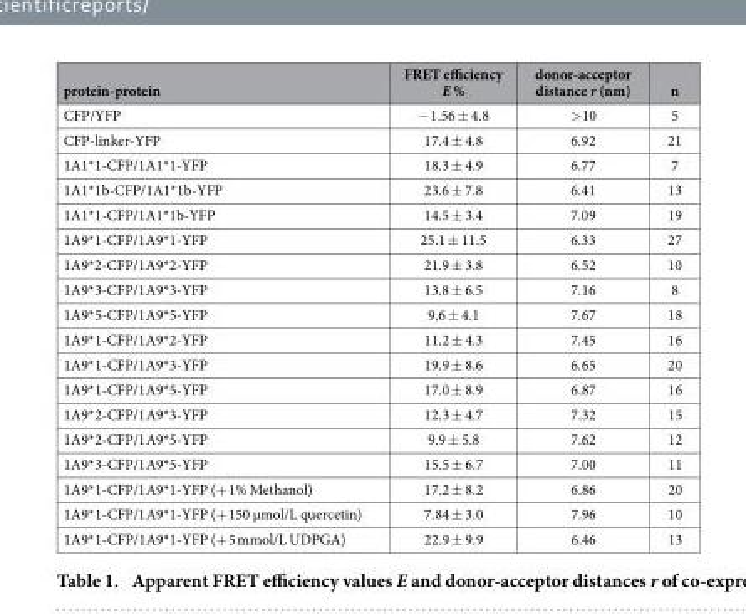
<table><thead><tr><td>protein-protein</td><td>FRET efficiency E %</td><td>donor-acceptor distance r (nm)</td><td>n</td></tr></thead><tbody><tr><td>CFP/YFP</td><td>− 1.56 ± 4.8</td><td>&gt;10</td><td>5</td></tr><tr><td>CFP-linker-YFP</td><td>17.4 ± 4.8</td><td>6.92</td><td>21</td></tr><tr><td>1A1*1-CFP/1A1*1-YFP</td><td>18.3 ± 4.9</td><td>6.77</td><td>7</td></tr><tr><td>1A1*1b-CFP/1A1*1b-YFP</td><td>23.6 ± 7.8</td><td>6.41</td><td>13</td></tr><tr><td>1A1*1-CFP/1A1*1b-YFP</td><td>14.5 ± 3.4</td><td>7.09</td><td>19</td></tr><tr><td>1A9*1-CFP/1A9*1-YFP</td><td>25.1 ± 11.5</td><td>6.33</td><td>27</td></tr><tr><td>1A9*2-CFP/1A9*2-YFP</td><td>21.9 ± 3.8</td><td>6.52</td><td>10</td></tr><tr><td>1A9*3-CFP/1A9*3-YFP</td><td>13.8 ± 6.5</td><td>7.16</td><td>8</td></tr><tr><td>1A9*5-CFP/1A9*5-YFP</td><td>9.6 ± 4.1</td><td>7.67</td><td>18</td></tr><tr><td>1A9*1-CFP/1A9*2-YFP</td><td>11.2 ± 4.3</td><td>7.45</td><td>16</td></tr><tr><td>1A9*1-CFP/1A9*3-YFP</td><td>19.9 ± 8.6</td><td>6.65</td><td>20</td></tr><tr><td>1A9*1-CFP/1A9*5-YFP</td><td>17.0 ± 8.9</td><td>6.87</td><td>16</td></tr><tr><td>1A9*2-CFP/1A9*3-YFP</td><td>12.3 ± 4.7</td><td>7.32</td><td>15</td></tr><tr><td>1A9*2-CFP/1A9*5-YFP</td><td>9.9 ± 5.8</td><td>7.62</td><td>12</td></tr><tr><td>1A9*3-CFP/1A9*5-YFP</td><td>15.5 ± 6.7</td><td>7.00</td><td>11</td></tr><tr><td>1A9*1-CFP/1A9*1-YFP (+ 1% Methanol)</td><td>17.2 ± 8.2</td><td>6.86</td><td>20</td></tr><tr><td>1A9*1-CFP/1A9*1-YFP (+ 150 μmol/L quercetin)</td><td>7.84 ± 3.0</td><td>7.96</td><td>10</td></tr><tr><td>1A9*1-CFP/1A9*1-YFP (+ 5 mmol/L UDPGA)</td><td>22.9 ± 9.9</td><td>6.46</td><td>13</td></tr></tbody></table>